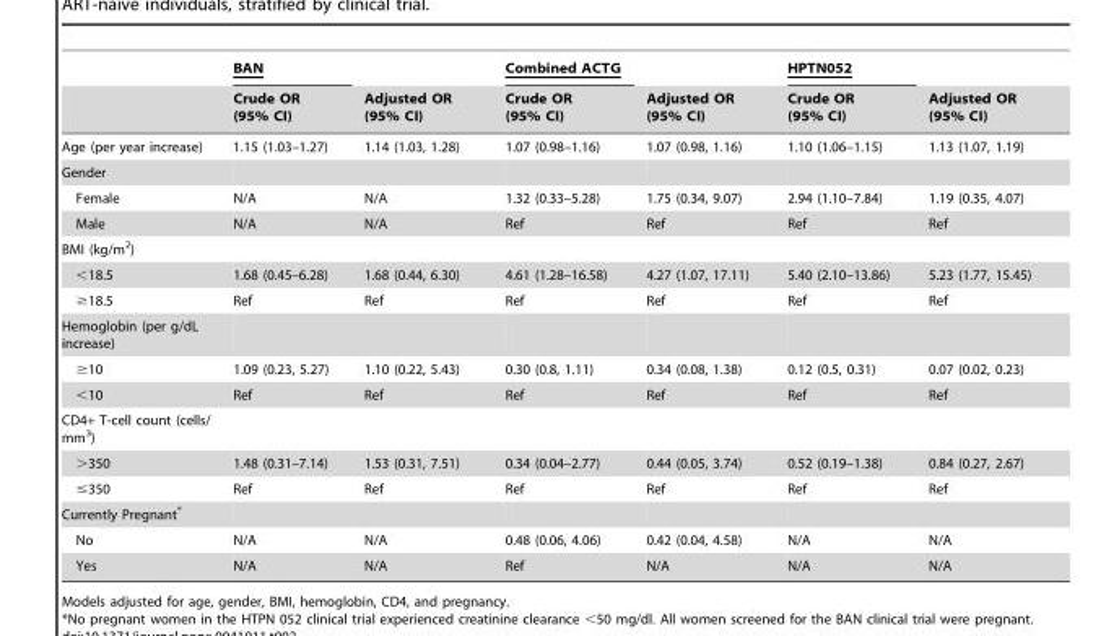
<table><thead><tr><td rowspan="2"></td><td rowspan="2">BAN Crude OR (95% CI)</td><td rowspan="2">Adjusted OR (95% CI)</td><td rowspan="2">Combined ACTG Crude OR (95% CI)</td><td rowspan="2">Adjusted OR (95% CI)</td><td rowspan="2">HPTN052 Crude OR (95% CI)</td><td rowspan="2">Adjusted OR (95% CI)</td></tr><tr></tr></thead><tbody><tr><td>Age (per year increase)</td><td>1.15 (1.03–1.27)</td><td>1.14 (1.03, 1.28)</td><td>1.07 (0.98–1.16)</td><td>1.07 (0.98, 1.16)</td><td>1.10 (1.06–1.15)</td><td>1.13 (1.07, 1.19)</td></tr><tr><td colspan="7">Gender</td></tr><tr><td>Female</td><td>N/A</td><td>N/A</td><td>1.32 (0.33–5.28)</td><td>1.75 (0.34, 9.07)</td><td>2.94 (1.10–7.84)</td><td>1.19 (0.35, 4.07)</td></tr><tr><td>Male</td><td>N/A</td><td>N/A</td><td>Ref</td><td>Ref</td><td>Ref</td><td>Ref</td></tr><tr><td colspan="7">BMI (kg/m<sup>2</sup>)</td></tr><tr><td>&lt;18.5</td><td>1.68 (0.45–6.28)</td><td>1.68 (0.44, 6.30)</td><td>4.61 (1.28–16.58)</td><td>4.27 (1.07, 17.11)</td><td>5.40 (2.10–13.86)</td><td>5.23 (1.77, 15.45)</td></tr><tr><td>≥18.5</td><td>Ref</td><td>Ref</td><td>Ref</td><td>Ref</td><td>Ref</td><td>Ref</td></tr><tr><td colspan="7">Hemoglobin (per g/dL increase)</td></tr><tr><td>≥10</td><td>1.09 (0.23, 5.27)</td><td>1.10 (0.22, 5.43)</td><td>0.30 (0.8, 1.11)</td><td>0.34 (0.08, 1.38)</td><td>0.12 (0.5, 0.31)</td><td>0.07 (0.02, 0.23)</td></tr><tr><td>&lt;10</td><td>Ref</td><td>Ref</td><td>Ref</td><td>Ref</td><td>Ref</td><td>Ref</td></tr><tr><td colspan="7">CD4+ T-cell count (cells/ mm<sup>3</sup>)</td></tr><tr><td>&gt;350</td><td>1.48 (0.31–7.14)</td><td>1.53 (0.31, 7.51)</td><td>0.34 (0.04–2.77)</td><td>0.44 (0.05, 3.74)</td><td>0.52 (0.19–1.38)</td><td>0.84 (0.27, 2.67)</td></tr><tr><td>≤350</td><td>Ref</td><td>Ref</td><td>Ref</td><td>Ref</td><td>Ref</td><td>Ref</td></tr><tr><td colspan="7">Currently Pregnant*</td></tr><tr><td>No</td><td>N/A</td><td>N/A</td><td>0.48 (0.06, 4.06)</td><td>0.42 (0.04, 4.58)</td><td>N/A</td><td>N/A</td></tr><tr><td>Yes</td><td>N/A</td><td>N/A</td><td>Ref</td><td>N/A</td><td>N/A</td><td>N/A</td></tr></tbody></table>